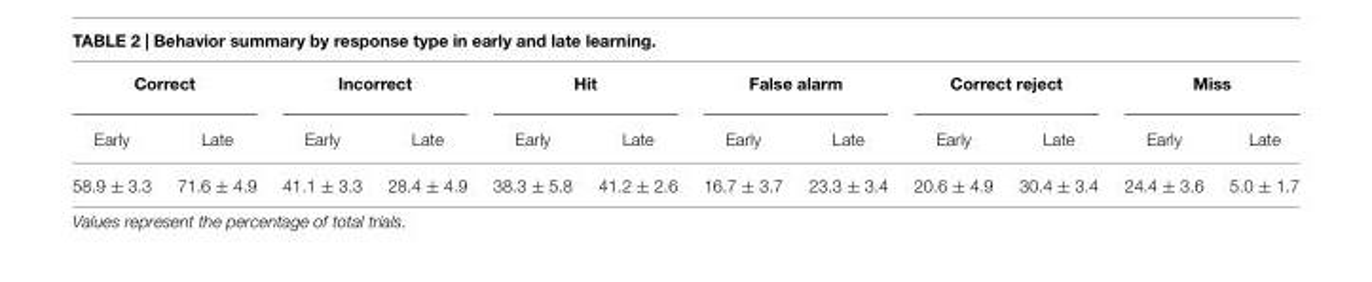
<table><thead><tr><td colspan="2">Correct</td><td colspan="2">Incorrect</td><td colspan="2">Hit</td><td colspan="2">False alarm</td><td colspan="2">Correct reject</td><td colspan="2">Miss</td></tr><tr><td>Early</td><td>Late</td><td>Early</td><td>Late</td><td>Early</td><td>Late</td><td>Early</td><td>Late</td><td>Early</td><td>Late</td><td>Early</td><td>Late</td></tr></thead><tbody><tr><td>58.9 ± 3.3</td><td>71.6 ± 4.9</td><td>41.1 ± 3.3</td><td>28.4 ± 4.9</td><td>38.3 ± 5.8</td><td>41.2 ± 2.6</td><td>16.7 ± 3.7</td><td>23.3 ± 3.4</td><td>20.6 ± 4.9</td><td>30.4 ± 3.4</td><td>24.4 ± 3.6</td><td>5.0 ± 1.7</td></tr></tbody></table>